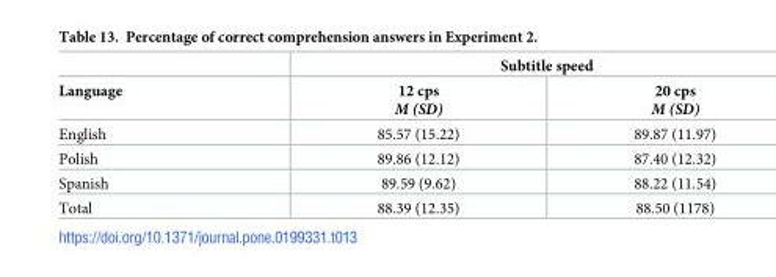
<table><thead><tr><td rowspan="2">Language</td><td colspan="2">Subtitle speed</td></tr><tr><td>12 cps M (SD)</td><td>20 cps M (SD)</td></tr></thead><tbody><tr><td>English</td><td>85.57 (15.22)</td><td>89.87 (11.97)</td></tr><tr><td>Polish</td><td>89.86 (12.12)</td><td>87.40 (12.32)</td></tr><tr><td>Spanish</td><td>89.59 (9.62)</td><td>88.22 (11.54)</td></tr><tr><td>Total</td><td>88.39 (12.35)</td><td>88.50 (1178)</td></tr></tbody></table>